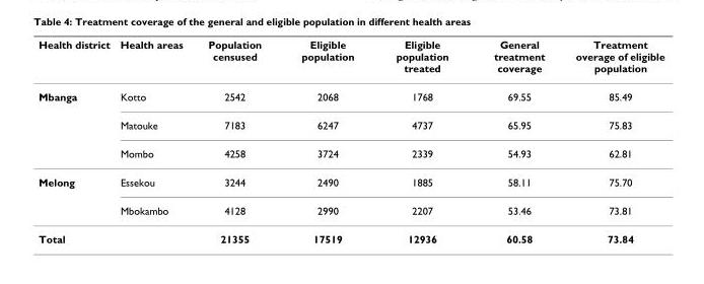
<table><thead><tr><td>Health district</td><td>Health areas</td><td>Population censused</td><td>Eligible population</td><td>Eligible population treated</td><td>General treatment coverage</td><td>Treatment overage of eligible population</td></tr></thead><tbody><tr><td rowspan="3">Mbanga</td><td>Kotto</td><td>2542</td><td>2068</td><td>1768</td><td>69.55</td><td>85.49</td></tr><tr><td>Matouke</td><td>7183</td><td>6247</td><td>4737</td><td>65.95</td><td>75.83</td></tr><tr><td>Mombo</td><td>4258</td><td>3724</td><td>2339</td><td>54.93</td><td>62.81</td></tr><tr><td rowspan="2">Melong</td><td>Essekou</td><td>3244</td><td>2490</td><td>1885</td><td>58.11</td><td>75.70</td></tr><tr><td>Mbokambo</td><td>4128</td><td>2990</td><td>2207</td><td>53.46</td><td>73.81</td></tr><tr><td>Total</td><td></td><td>21355</td><td>17519</td><td>12936</td><td>60.58</td><td>73.84</td></tr></tbody></table>